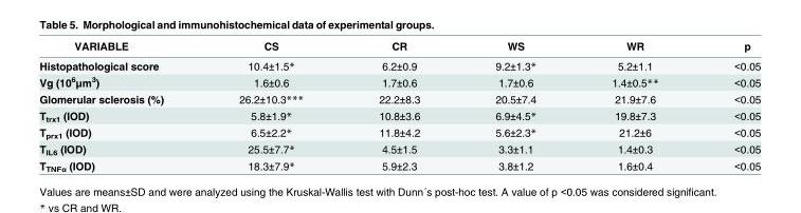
<table><thead><tr><td>VARIABLE</td><td>CS</td><td>CR</td><td>WS</td><td>WR</td><td>p</td></tr></thead><tbody><tr><td>Histopathological score</td><td>10.4±1.5*</td><td>6.2±0.9</td><td>9.2±1.3*</td><td>5.2±1.1</td><td>&lt;0.05</td></tr><tr><td>Vg (10<sup>6</sup>μm<sup>3</sup>)</td><td>1.6±0.6</td><td>1.7±0.6</td><td>1.7±0.6</td><td>1.4±0.5**</td><td>&lt;0.05</td></tr><tr><td>Glomerular sclerosis (%)</td><td>26.2±10.3***</td><td>22.2±8.3</td><td>20.5±7.4</td><td>21.9±7.6</td><td>&lt;0.05</td></tr><tr><td>T<sub>trx1</sub> (IOD)</td><td>5.8±1.9*</td><td>10.8±3.6</td><td>6.9±4.5*</td><td>19.8±7.3</td><td>&lt;0.05</td></tr><tr><td>T<sub>prx1</sub> (IOD)</td><td>6.5±2.2*</td><td>11.8±4.2</td><td>5.6±2.3*</td><td>21.2±6</td><td>&lt;0.05</td></tr><tr><td>T<sub>IL6</sub> (IOD)</td><td>25.5±7.7*</td><td>4.5±1.5</td><td>3.3±1.1</td><td>1.4±0.3</td><td>&lt;0.05</td></tr><tr><td>T<sub>TNFα</sub> (IOD)</td><td>18.3±7.9*</td><td>5.9±2.3</td><td>3.8±1.2</td><td>1.6±0.4</td><td>&lt;0.05</td></tr></tbody></table>